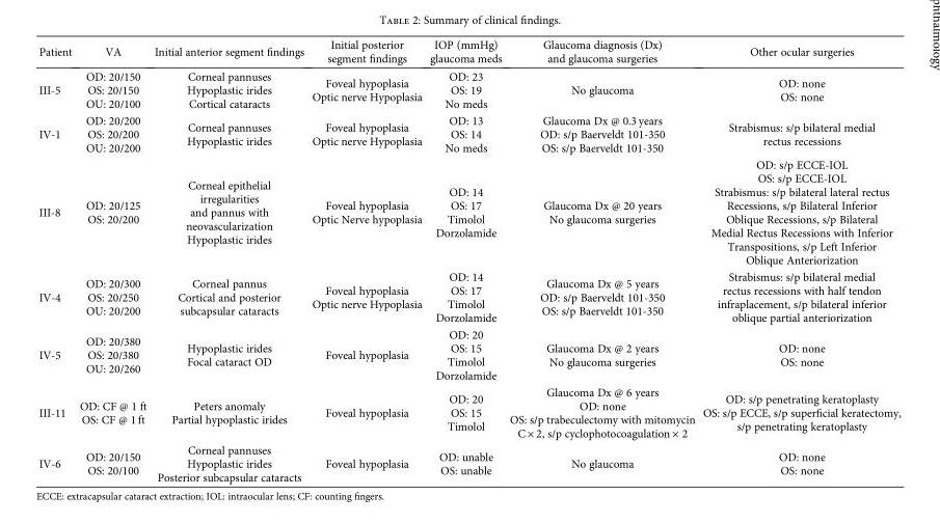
<table><thead><tr><td>Patient</td><td>VA</td><td>Initial anterior segment findings</td><td>Initial posterior segment findings</td><td>IOP (mmHg) glaucoma meds</td><td>Glaucoma diagnosis (Dx) and glaucoma surgeries</td><td>Other ocular surgeries</td></tr></thead><tbody><tr><td>III-5</td><td>OD: 20/150 OS: 20/150 OU: 20/100</td><td>Corneal pannuses Hypoplastic irides Cortical cataracts</td><td>Foveal hypoplasia Optic nerve Hypoplasia</td><td>OD: 23 OS: 19 No meds</td><td>No glaucoma</td><td>OD: none OS: none</td></tr><tr><td>IV-1</td><td>OD: 20/200 OS: 20/200 OU: 20/200</td><td>Corneal pannuses Hypoplastic irides</td><td>Foveal hypoplasia Optic nerve Hypoplasia</td><td>OD: 13 OS: 14 No meds</td><td>Glaucoma Dx @ 0.3 years OD: s/p Baerveldt 101-350 OS: s/p Baerveldt 101-350</td><td>Strabismus: s/p bilateral medial rectus recessions</td></tr><tr><td>III-8</td><td>OD: 20/125 OS: 20/200</td><td>Corneal epithelial irregularities and pannus with neovascularization Hypoplastic irides</td><td>Foveal hypoplasia Optic Nerve hypoplasia</td><td>OD: 14 OS: 17 Timolol Dorzolamide</td><td>Glaucoma Dx @ 20 years No glaucoma surgeries</td><td>OD: s/p ECCE-IOL OS: s/p ECCE-IOL Strabismus: s/p bilateral lateral rectus Recessions, s/p Bilateral Inferior Oblique Recessions, s/p Bilateral Medial Rectus Recessions with Inferior Transpositions, s/p Left Inferior Oblique Anteriorization</td></tr><tr><td>IV-4</td><td>OD: 20/300 OS: 20/250 OU: 20/200</td><td>Corneal pannus Cortical and posterior subcapsular cataracts</td><td>Foveal hypoplasia Optic nerve Hypoplasia</td><td>OD: 14 OS: 17 Timolol Dorzolamide</td><td>Glaucoma Dx @ 5 years OD: s/p Baerveldt 101-350 OS: s/p Baerveldt 101-350</td><td>Strabismus: s/p bilateral medial rectus recessions with half tendon infraplacement, s/p bilateral inferior oblique partial anteriorization</td></tr><tr><td>IV-5</td><td>OD: 20/380 OS: 20/380 OU: 20/260</td><td>Hypoplastic irides Focal cataract OD</td><td>Foveal hypoplasia</td><td>OD: 20 OS: 15 Timolol Dorzolamide</td><td>Glaucoma Dx @ 2 years No glaucoma surgeries</td><td>OD: none OS: none</td></tr><tr><td>III-11</td><td>OD: CF @ 1 ft OS: CF @ 1 ft</td><td>Peters anomaly Partial hypoplastic irides</td><td>Foveal hypoplasia</td><td>OD: 20 OS: 15 Timolol</td><td>Glaucoma Dx @ 6 years OD: none OS: s/p trabeculectomy with mitomycin C × 2, s/p cyclophotocoagulation × 2</td><td>OD: s/p penetrating keratoplasty OS: s/p ECCE, s/p superficial keratectomy, s/p penetrating keratoplasty</td></tr><tr><td>IV-6</td><td>OD: 20/150 OS: 20/100</td><td>Corneal pannuses Hypoplastic irides Posterior subcapsular cataracts</td><td>Foveal hypoplasia</td><td>OD: unable OS: unable</td><td>No glaucoma</td><td>OD: none OS: none</td></tr></tbody></table>